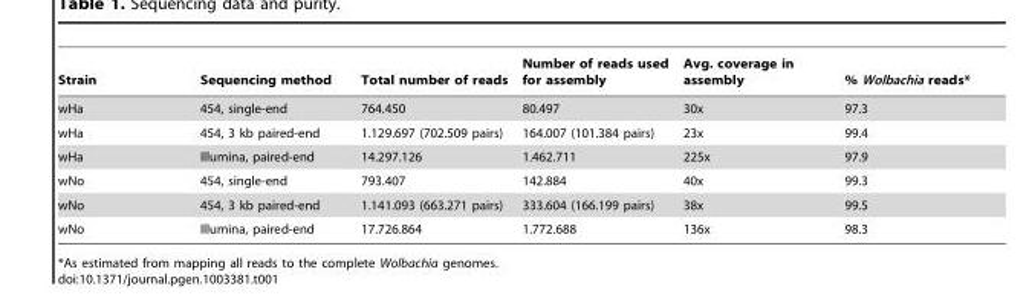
<table><thead><tr><td>Strain</td><td>Sequencing method</td><td>Total number of reads</td><td>Number of reads used for assembly</td><td>Avg. coverage in assembly</td><td>% Wolbachia reads*</td></tr></thead><tbody><tr><td>wHa</td><td>454, single-end</td><td>764.450</td><td>80.497</td><td>30x</td><td>97.3</td></tr><tr><td>wHa</td><td>454, 3 kb paired-end</td><td>1.129.697 (702.509 pairs)</td><td>164.007 (101.384 pairs)</td><td>23x</td><td>99.4</td></tr><tr><td>wHa</td><td>Illumina, paired-end</td><td>14.297.126</td><td>1.462.711</td><td>225x</td><td>97.9</td></tr><tr><td>wNo</td><td>454, single-end</td><td>793.407</td><td>142.884</td><td>40x</td><td>99.3</td></tr><tr><td>wNo</td><td>454, 3 kb paired-end</td><td>1.141.093 (663.271 pairs)</td><td>333.604 (166.199 pairs)</td><td>38x</td><td>99.5</td></tr><tr><td>wNo</td><td>Illumina, paired-end</td><td>17.726.864</td><td>1.772.688</td><td>136x</td><td>98.3</td></tr></tbody></table>